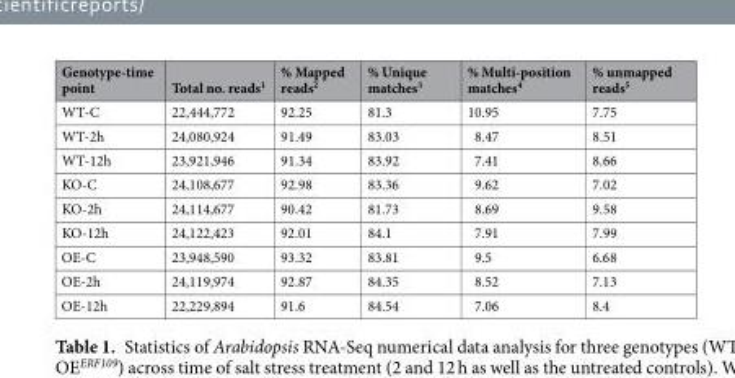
<table><thead><tr><td>Genotype-time point</td><td>Total no. reads<sup>1</sup></td><td>% Mapped reads<sup>2</sup></td><td>% Unique matches<sup>3</sup></td><td>% Multi-position matches<sup>4</sup></td><td>% unmapped reads<sup>5</sup></td></tr></thead><tbody><tr><td>WT-C</td><td>22,444,772</td><td>92.25</td><td>81.3</td><td>10.95</td><td>7.75</td></tr><tr><td>WT-2h</td><td>24,080,924</td><td>91.49</td><td>83.03</td><td>8.47</td><td>8.51</td></tr><tr><td>WT-12h</td><td>23,921,946</td><td>91.34</td><td>83.92</td><td>7.41</td><td>8.66</td></tr><tr><td>KO-C</td><td>24,108,677</td><td>92.98</td><td>83.36</td><td>9.62</td><td>7.02</td></tr><tr><td>KO-2h</td><td>24,114,677</td><td>90.42</td><td>81.73</td><td>8.69</td><td>9.58</td></tr><tr><td>KO-12h</td><td>24,122,423</td><td>92.01</td><td>84.1</td><td>7.91</td><td>7.99</td></tr><tr><td>OE-C</td><td>23,948,590</td><td>93.32</td><td>83.81</td><td>9.5</td><td>6.68</td></tr><tr><td>OE-2h</td><td>24,119,974</td><td>92.87</td><td>84.35</td><td>8.52</td><td>7.13</td></tr><tr><td>OE-12h</td><td>22,229,894</td><td>91.6</td><td>84.54</td><td>7.06</td><td>8.4</td></tr></tbody></table>